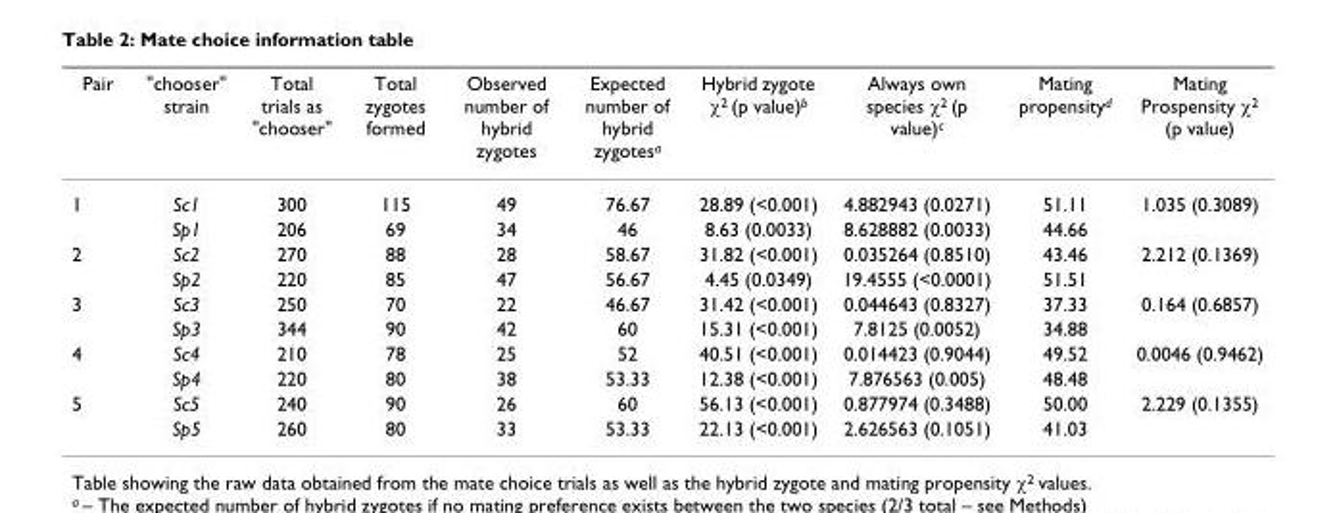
<table><thead><tr><td>Pair</td><td>&quot;chooser&quot; strain</td><td>Total trials as &quot;chooser&quot;</td><td>Total zygotes formed</td><td>Observed number of hybrid zygotes</td><td>Expected number of hybrid zygotes<sup>a</sup></td><td>Hybrid zygote χ<sup>2</sup> (p value)<sup>b</sup></td><td>Always own species χ<sup>2</sup> (p value)<sup>c</sup></td><td>Mating propensity<sup>d</sup></td><td>Mating Prospensity χ<sup>2</sup> (p value)</td></tr></thead><tbody><tr><td rowspan="2">1</td><td>Sc1</td><td>300</td><td>115</td><td>49</td><td>76.67</td><td>28.89 (&lt;0.001)</td><td>4.882943 (0.0271)</td><td>51.11</td><td>1.035 (0.3089)</td></tr><tr><td>Sp1</td><td>206</td><td>69</td><td>34</td><td>46</td><td>8.63 (0.0033)</td><td>8.628882 (0.0033)</td><td>44.66</td><td></td></tr><tr><td rowspan="2">2</td><td>Sc2</td><td>270</td><td>88</td><td>28</td><td>58.67</td><td>31.82 (&lt;0.001)</td><td>0.035264 (0.8510)</td><td>43.46</td><td>2.212 (0.1369)</td></tr><tr><td>Sp2</td><td>220</td><td>85</td><td>47</td><td>56.67</td><td>4.45 (0.0349)</td><td>19.4555 (&lt;0.0001)</td><td>51.51</td><td></td></tr><tr><td rowspan="2">3</td><td>Sc3</td><td>250</td><td>70</td><td>22</td><td>46.67</td><td>31.42 (&lt;0.001)</td><td>0.044643 (0.8327)</td><td>37.33</td><td>0.164 (0.6857)</td></tr><tr><td>Sp3</td><td>344</td><td>90</td><td>42</td><td>60</td><td>15.31 (&lt;0.001)</td><td>7.8125 (0.0052)</td><td>34.88</td><td></td></tr><tr><td rowspan="2">4</td><td>Sc4</td><td>210</td><td>78</td><td>25</td><td>52</td><td>40.51 (&lt;0.001)</td><td>0.014423 (0.9044)</td><td>49.52</td><td>0.0046 (0.9462)</td></tr><tr><td>Sp4</td><td>220</td><td>80</td><td>38</td><td>53.33</td><td>12.38 (&lt;0.001)</td><td>7.876563 (0.005)</td><td>48.48</td><td></td></tr><tr><td rowspan="2">5</td><td>Sc5</td><td>240</td><td>90</td><td>26</td><td>60</td><td>56.13 (&lt;0.001)</td><td>0.877974 (0.3488)</td><td>50.00</td><td>2.229 (0.1355)</td></tr><tr><td>Sp5</td><td>260</td><td>80</td><td>33</td><td>53.33</td><td>22.13 (&lt;0.001)</td><td>2.626563 (0.1051)</td><td>41.03</td><td></td></tr></tbody></table>